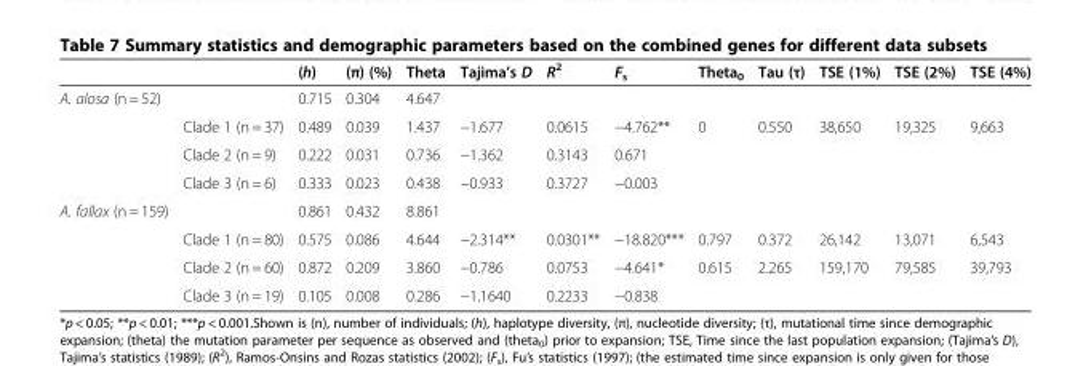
<table><thead><tr><td></td><td></td><td>(h)</td><td>(π) (%)</td><td>Theta</td><td>Tajima’s D</td><td>R<sup>2</sup></td><td>F<sub>s</sub></td><td>Theta<sub>0</sub></td><td>Tau (τ)</td><td>TSE (1%)</td><td>TSE (2%)</td><td>TSE (4%)</td></tr></thead><tbody><tr><td rowspan="4">A. alosa (n = 52)</td><td></td><td>0.715</td><td>0.304</td><td>4.647</td><td></td><td></td><td></td><td></td><td></td><td></td><td></td><td></td></tr><tr><td>Clade 1 (n = 37)</td><td>0.489</td><td>0.039</td><td>1.437</td><td>−1.677</td><td>0.0615</td><td>−4.762**</td><td>0</td><td>0.550</td><td>38,650</td><td>19,325</td><td>9,663</td></tr><tr><td>Clade 2 (n = 9)</td><td>0.222</td><td>0.031</td><td>0.736</td><td>−1.362</td><td>0.3143</td><td>0.671</td><td></td><td></td><td></td><td></td><td></td></tr><tr><td>Clade 3 (n = 6)</td><td>0.333</td><td>0.023</td><td>0.438</td><td>−0.933</td><td>0.3727</td><td>−0.003</td><td></td><td></td><td></td><td></td><td></td></tr><tr><td rowspan="4">A. fallax (n = 159)</td><td></td><td>0.861</td><td>0.432</td><td>8.861</td><td></td><td></td><td></td><td></td><td></td><td></td><td></td><td></td></tr><tr><td>Clade 1 (n = 80)</td><td>0.575</td><td>0.086</td><td>4.644</td><td>−2.314**</td><td>0.0301**</td><td>−18.820***</td><td>0.797</td><td>0.372</td><td>26,142</td><td>13,071</td><td>6,543</td></tr><tr><td>Clade 2 (n = 60)</td><td>0.872</td><td>0.209</td><td>3.860</td><td>−0.786</td><td>0.0753</td><td>−4.641*</td><td>0.615</td><td>2.265</td><td>159,170</td><td>79,585</td><td>39,793</td></tr><tr><td>Clade 3 (n = 19)</td><td>0.105</td><td>0.008</td><td>0.286</td><td>−1.1640</td><td>0.2233</td><td>−0.838</td><td></td><td></td><td></td><td></td><td></td></tr></tbody></table>